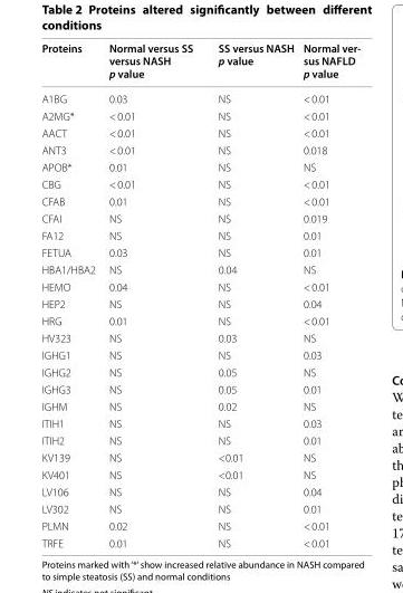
<table><thead><tr><td>Proteins</td><td>Normal versus SS versus NASH p value</td><td>SS versus NASH p value</td><td>Normal ver‑ sus NAFLD p value</td></tr></thead><tbody><tr><td>A1BG</td><td>0.03</td><td>NS</td><td>&lt; 0.01</td></tr><tr><td>A2MG*</td><td>&lt; 0.01</td><td>NS</td><td>&lt; 0.01</td></tr><tr><td>AACT</td><td>&lt; 0.01</td><td>NS</td><td>&lt; 0.01</td></tr><tr><td>ANT3</td><td>&lt; 0.01</td><td>NS</td><td>0.018</td></tr><tr><td>APOB*</td><td>0.01</td><td>NS</td><td>NS</td></tr><tr><td>CBG</td><td>&lt; 0.01</td><td>NS</td><td>&lt; 0.01</td></tr><tr><td>CFAB</td><td>0.01</td><td>NS</td><td>&lt; 0.01</td></tr><tr><td>CFAI</td><td>NS</td><td>NS</td><td>0.019</td></tr><tr><td>FA12</td><td>NS</td><td>NS</td><td>0.01</td></tr><tr><td>FETUA</td><td>0.03</td><td>NS</td><td>0.01</td></tr><tr><td>HBA1/HBA2</td><td>NS</td><td>0.04</td><td>NS</td></tr><tr><td>HEMO</td><td>0.04</td><td>NS</td><td>&lt; 0.01</td></tr><tr><td>HEP2</td><td>NS</td><td>NS</td><td>0.04</td></tr><tr><td>HRG</td><td>0.01</td><td>NS</td><td>&lt; 0.01</td></tr><tr><td>HV323</td><td>NS</td><td>0.03</td><td>NS</td></tr><tr><td>IGHG1</td><td>NS</td><td>NS</td><td>0.03</td></tr><tr><td>IGHG2</td><td>NS</td><td>0.05</td><td>NS</td></tr><tr><td>IGHG3</td><td>NS</td><td>0.05</td><td>0.01</td></tr><tr><td>IGHM</td><td>NS</td><td>0.02</td><td>NS</td></tr><tr><td>ITIH1</td><td>NS</td><td>NS</td><td>0.03</td></tr><tr><td>ITIH2</td><td>NS</td><td>NS</td><td>0.01</td></tr><tr><td>KV139</td><td>NS</td><td>&lt;0.01</td><td>NS</td></tr><tr><td>KV401</td><td>NS</td><td>&lt;0.01</td><td>NS</td></tr><tr><td>LV106</td><td>NS</td><td>NS</td><td>0.04</td></tr><tr><td>LV302</td><td>NS</td><td>NS</td><td>0.01</td></tr><tr><td>PLMN</td><td>0.02</td><td>NS</td><td>&lt; 0.01</td></tr><tr><td>TRFE</td><td>0.01</td><td>NS</td><td>&lt; 0.01</td></tr></tbody></table>